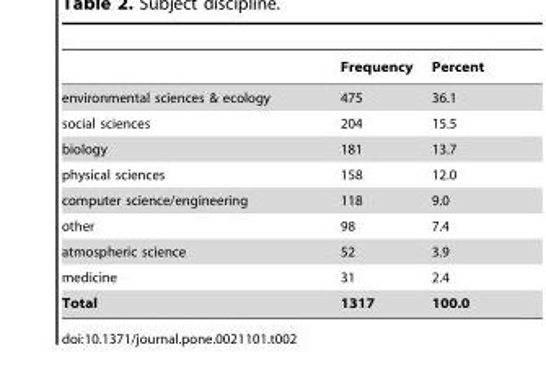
<table><thead><tr><td></td><td>Frequency</td><td>Percent</td></tr></thead><tbody><tr><td>environmental sciences &amp; ecology</td><td>475</td><td>36.1</td></tr><tr><td>social sciences</td><td>204</td><td>15.5</td></tr><tr><td>biology</td><td>181</td><td>13.7</td></tr><tr><td>physical sciences</td><td>158</td><td>12.0</td></tr><tr><td>computer science/engineering</td><td>118</td><td>9.0</td></tr><tr><td>other</td><td>98</td><td>7.4</td></tr><tr><td>atmospheric science</td><td>52</td><td>3.9</td></tr><tr><td>medicine</td><td>31</td><td>2.4</td></tr><tr><td>Total</td><td>1317</td><td>100.0</td></tr></tbody></table>